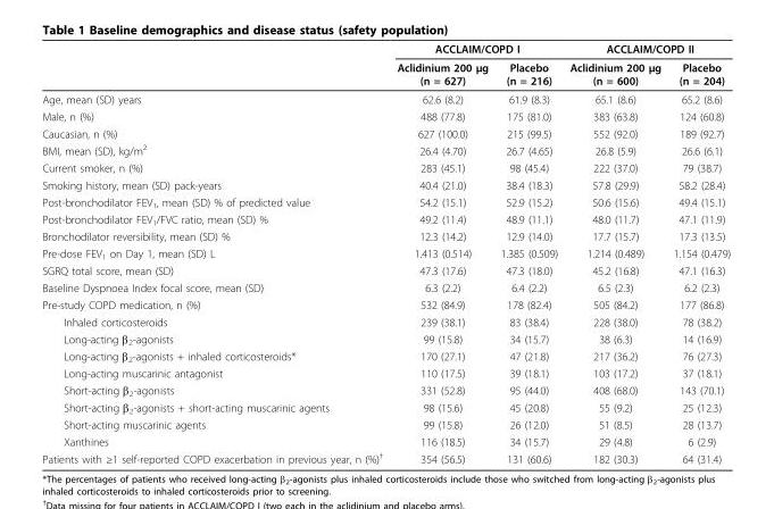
<table><thead><tr><td rowspan="2"></td><td colspan="2">ACCLAIM/COPD I</td><td colspan="2">ACCLAIM/COPD II</td></tr><tr><td>Aclidinium 200 μg (n = 627)</td><td>Placebo (n = 216)</td><td>Aclidinium 200 μg (n = 600)</td><td>Placebo (n = 204)</td></tr></thead><tbody><tr><td>Age, mean (SD) years</td><td>62.6 (8.2)</td><td>61.9 (8.3)</td><td>65.1 (8.6)</td><td>65.2 (8.6)</td></tr><tr><td>Male, n (%)</td><td>488 (77.8)</td><td>175 (81.0)</td><td>383 (63.8)</td><td>124 (60.8)</td></tr><tr><td>Caucasian, n (%)</td><td>627 (100.0)</td><td>215 (99.5)</td><td>552 (92.0)</td><td>189 (92.7)</td></tr><tr><td>BMI, mean (SD), kg/m<sup>2</sup></td><td>26.4 (4.70)</td><td>26.7 (4.65)</td><td>26.8 (5.9)</td><td>26.6 (6.1)</td></tr><tr><td>Current smoker, n (%)</td><td>283 (45.1)</td><td>98 (45.4)</td><td>222 (37.0)</td><td>79 (38.7)</td></tr><tr><td>Smoking history, mean (SD) pack-years</td><td>40.4 (21.0)</td><td>38.4 (18.3)</td><td>57.8 (29.9)</td><td>58.2 (28.4)</td></tr><tr><td>Post-bronchodilator FEV<sub>1</sub>, mean (SD) % of predicted value</td><td>54.2 (15.1)</td><td>52.9 (15.2)</td><td>50.6 (15.6)</td><td>49.4 (15.1)</td></tr><tr><td>Post-bronchodilator FEV<sub>1</sub>/FVC ratio, mean (SD) %</td><td>49.2 (11.4)</td><td>48.9 (11.1)</td><td>48.0 (11.7)</td><td>47.1 (11.9)</td></tr><tr><td>Bronchodilator reversibility, mean (SD) %</td><td>12.3 (14.2)</td><td>12.9 (14.0)</td><td>17.7 (15.7)</td><td>17.3 (13.5)</td></tr><tr><td>Pre-dose FEV<sub>1</sub> on Day 1, mean (SD) L</td><td>1.413 (0.514)</td><td>1.385 (0.509)</td><td>1.214 (0.489)</td><td>1.154 (0.479)</td></tr><tr><td>SGRQ total score, mean (SD)</td><td>47.3 (17.6)</td><td>47.3 (18.0)</td><td>45.2 (16.8)</td><td>47.1 (16.3)</td></tr><tr><td>Baseline Dyspnoea Index focal score, mean (SD)</td><td>6.3 (2.2)</td><td>6.4 (2.2)</td><td>6.5 (2.3)</td><td>6.2 (2.3)</td></tr><tr><td>Pre-study COPD medication, n (%)</td><td>532 (84.9)</td><td>178 (82.4)</td><td>505 (84.2)</td><td>177 (86.8)</td></tr><tr><td>Inhaled corticosteroids</td><td>239 (38.1)</td><td>83 (38.4)</td><td>228 (38.0)</td><td>78 (38.2)</td></tr><tr><td>Long-acting β<sub>2</sub>-agonists</td><td>99 (15.8)</td><td>34 (15.7)</td><td>38 (6.3)</td><td>14 (16.9)</td></tr><tr><td>Long-acting β<sub>2</sub>-agonists + inhaled corticosteroids*</td><td>170 (27.1)</td><td>47 (21.8)</td><td>217 (36.2)</td><td>76 (27.3)</td></tr><tr><td>Long-acting muscarinic antagonist</td><td>110 (17.5)</td><td>39 (18.1)</td><td>103 (17.2)</td><td>37 (18.1)</td></tr><tr><td>Short-acting β<sub>2</sub>-agonists</td><td>331 (52.8)</td><td>95 (44.0)</td><td>408 (68.0)</td><td>143 (70.1)</td></tr><tr><td>Short-acting β<sub>2</sub>-agonists + short-acting muscarinic agents</td><td>98 (15.6)</td><td>45 (20.8)</td><td>55 (9.2)</td><td>25 (12.3)</td></tr><tr><td>Short-acting muscarinic agents</td><td>99 (15.8)</td><td>26 (12.0)</td><td>51 (8.5)</td><td>28 (13.7)</td></tr><tr><td>Xanthines</td><td>116 (18.5)</td><td>34 (15.7)</td><td>29 (4.8)</td><td>6 (2.9)</td></tr><tr><td>Patients with ≥1 self-reported COPD exacerbation in previous year, n (%)<sup>†</sup></td><td>354 (56.5)</td><td>131 (60.6)</td><td>182 (30.3)</td><td>64 (31.4)</td></tr></tbody></table>